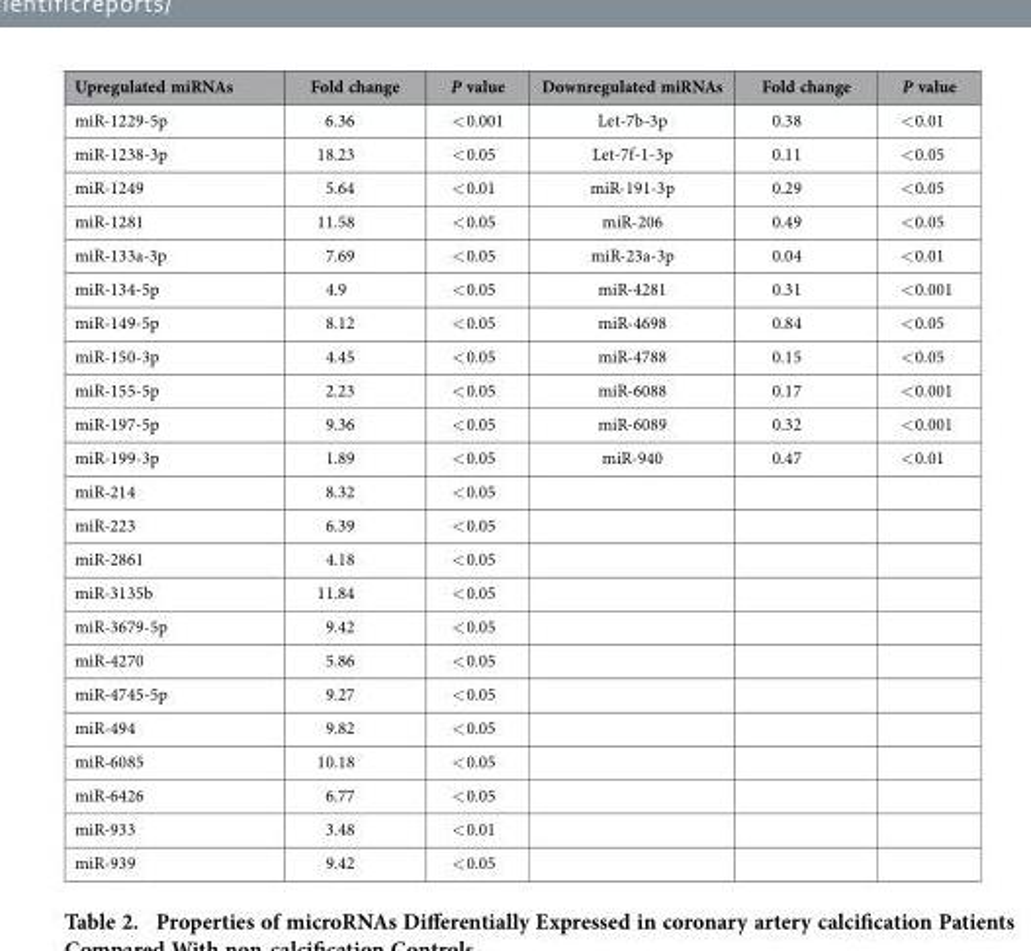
<table><thead><tr><td>Upregulated miRNAs</td><td>Fold change</td><td>P value</td><td>Downregulated miRNAs</td><td>Fold change</td><td>P value</td></tr></thead><tbody><tr><td>miR-1229-5p</td><td>6.36</td><td>&lt; 0.001</td><td>Let-7b-3p</td><td>0.38</td><td>&lt; 0.01</td></tr><tr><td>miR-1238-3p</td><td>18.23</td><td>&lt; 0.05</td><td>Let-7f-1-3p</td><td>0.11</td><td>&lt; 0.05</td></tr><tr><td>miR-1249</td><td>5.64</td><td>&lt; 0.01</td><td>miR-191-3p</td><td>0.29</td><td>&lt; 0.05</td></tr><tr><td>miR-1281</td><td>11.58</td><td>&lt; 0.05</td><td>miR-206</td><td>0.49</td><td>&lt; 0.05</td></tr><tr><td>miR-133a-3p</td><td>7.69</td><td>&lt; 0.05</td><td>miR-23a-3p</td><td>0.04</td><td>&lt; 0.01</td></tr><tr><td>miR-134-5p</td><td>4.9</td><td>&lt; 0.05</td><td>miR-4281</td><td>0.31</td><td>&lt; 0.001</td></tr><tr><td>miR-149-5p</td><td>8.12</td><td>&lt; 0.05</td><td>miR-4698</td><td>0.84</td><td>&lt; 0.05</td></tr><tr><td>miR-150-3p</td><td>4.45</td><td>&lt; 0.05</td><td>miR-4788</td><td>0.15</td><td>&lt; 0.05</td></tr><tr><td>miR-155-5p</td><td>2.23</td><td>&lt; 0.05</td><td>miR-6088</td><td>0.17</td><td>&lt; 0.001</td></tr><tr><td>miR-197-5p</td><td>9.36</td><td>&lt; 0.05</td><td>miR-6089</td><td>0.32</td><td>&lt; 0.001</td></tr><tr><td>miR-199-3p</td><td>1.89</td><td>&lt; 0.05</td><td>miR-940</td><td>0.47</td><td>&lt; 0.01</td></tr><tr><td>miR-214</td><td>8.32</td><td>&lt; 0.05</td><td></td><td></td><td></td></tr><tr><td>miR-223</td><td>6.39</td><td>&lt; 0.05</td><td></td><td></td><td></td></tr><tr><td>miR-2861</td><td>4.18</td><td>&lt; 0.05</td><td></td><td></td><td></td></tr><tr><td>miR-3135b</td><td>11.84</td><td>&lt; 0.05</td><td></td><td></td><td></td></tr><tr><td>miR-3679-5p</td><td>9.42</td><td>&lt; 0.05</td><td></td><td></td><td></td></tr><tr><td>miR-4270</td><td>5.86</td><td>&lt; 0.05</td><td></td><td></td><td></td></tr><tr><td>miR-4745-5p</td><td>9.27</td><td>&lt; 0.05</td><td></td><td></td><td></td></tr><tr><td>miR-494</td><td>9.82</td><td>&lt; 0.05</td><td></td><td></td><td></td></tr><tr><td>miR-6085</td><td>10.18</td><td>&lt; 0.05</td><td></td><td></td><td></td></tr><tr><td>miR-6426</td><td>6.77</td><td>&lt; 0.05</td><td></td><td></td><td></td></tr><tr><td>miR-933</td><td>3.48</td><td>&lt; 0.01</td><td></td><td></td><td></td></tr><tr><td>miR-939</td><td>9.42</td><td>&lt; 0.05</td><td></td><td></td><td></td></tr></tbody></table>